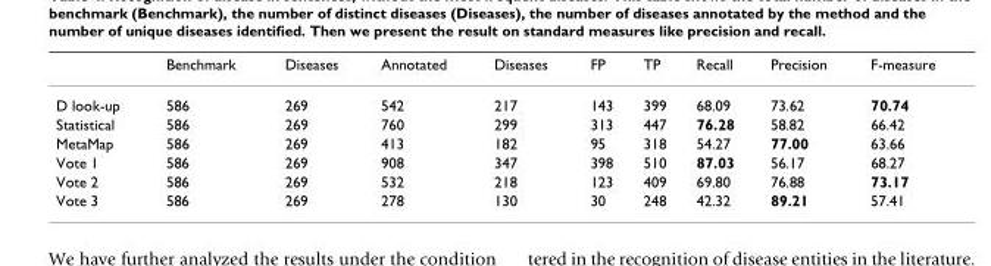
<table><thead><tr><td></td><td>Benchmark</td><td>Diseases</td><td>Annotated</td><td>Diseases</td><td>FP</td><td>TP</td><td>Recall</td><td>Precision</td><td>F-measure</td></tr></thead><tbody><tr><td>D look-up</td><td>586</td><td>269</td><td>542</td><td>217</td><td>143</td><td>399</td><td>68.09</td><td>73.62</td><td>70.74</td></tr><tr><td>Statistical</td><td>586</td><td>269</td><td>760</td><td>299</td><td>313</td><td>447</td><td>76.28</td><td>58.82</td><td>66.42</td></tr><tr><td>MetaMap</td><td>586</td><td>269</td><td>413</td><td>182</td><td>95</td><td>318</td><td>54.27</td><td>77.00</td><td>63.66</td></tr><tr><td>Vote 1</td><td>586</td><td>269</td><td>908</td><td>347</td><td>398</td><td>510</td><td>87.03</td><td>56.17</td><td>68.27</td></tr><tr><td>Vote 2</td><td>586</td><td>269</td><td>532</td><td>218</td><td>123</td><td>409</td><td>69.80</td><td>76.88</td><td>73.17</td></tr><tr><td>Vote 3</td><td>586</td><td>269</td><td>278</td><td>130</td><td>30</td><td>248</td><td>42.32</td><td>89.21</td><td>57.41</td></tr></tbody></table>